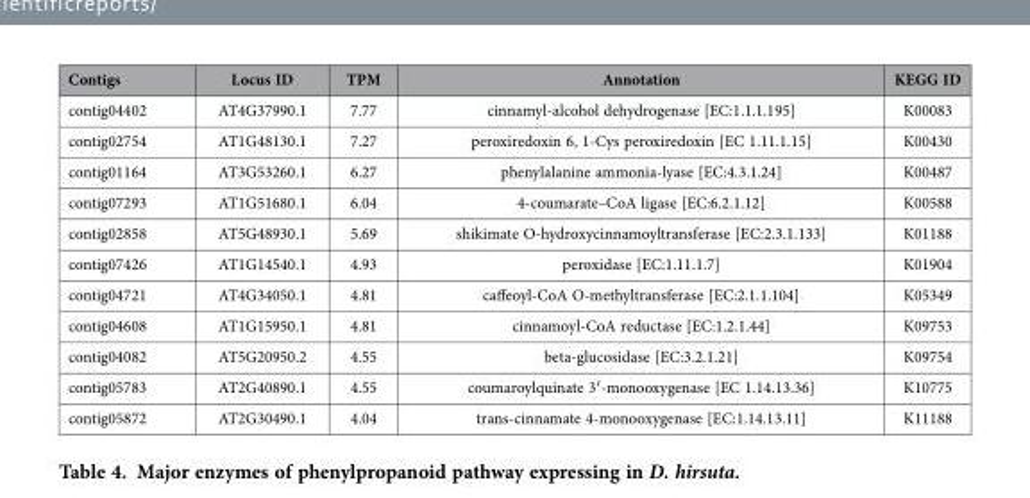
<table><thead><tr><td>Contigs</td><td>Locus ID</td><td>TPM</td><td>Annotation</td><td>KEGG ID</td></tr></thead><tbody><tr><td>contig04402</td><td>AT4G37990.1</td><td>7.77</td><td>cinnamyl-alcohol dehydrogenase [EC:1.1.1.195]</td><td>K00083</td></tr><tr><td>contig02754</td><td>AT1G48130.1</td><td>7.27</td><td>peroxiredoxin 6, 1-Cys peroxiredoxin [EC 1.11.1.15]</td><td>K00430</td></tr><tr><td>contig01164</td><td>AT3G53260.1</td><td>6.27</td><td>phenylalanine ammonia-lyase [EC:4.3.1.24]</td><td>K00487</td></tr><tr><td>contig07293</td><td>AT1G51680.1</td><td>6.04</td><td>4-coumarate–CoA ligase [EC:6.2.1.12]</td><td>K00588</td></tr><tr><td>contig02858</td><td>AT5G48930.1</td><td>5.69</td><td>shikimate O-hydroxycinnamoyltransferase [EC:2.3.1.133]</td><td>K01188</td></tr><tr><td>contig07426</td><td>AT1G14540.1</td><td>4.93</td><td>peroxidase [EC:1.11.1.7]</td><td>K01904</td></tr><tr><td>contig04721</td><td>AT4G34050.1</td><td>4.81</td><td>caffeoyl-CoA O-methyltransferase [EC:2.1.1.104]</td><td>K05349</td></tr><tr><td>contig04608</td><td>AT1G15950.1</td><td>4.81</td><td>cinnamoyl-CoA reductase [EC:1.2.1.44]</td><td>K09753</td></tr><tr><td>contig04082</td><td>AT5G20950.2</td><td>4.55</td><td>beta-glucosidase [EC:3.2.1.21]</td><td>K09754</td></tr><tr><td>contig05783</td><td>AT2G40890.1</td><td>4.55</td><td>coumaroylquinate 3′ -monooxygenase [EC 1.14.13.36]</td><td>K10775</td></tr><tr><td>contig05872</td><td>AT2G30490.1</td><td>4.04</td><td>trans-cinnamate 4-monooxygenase [EC:1.14.13.11]</td><td>K11188</td></tr></tbody></table>